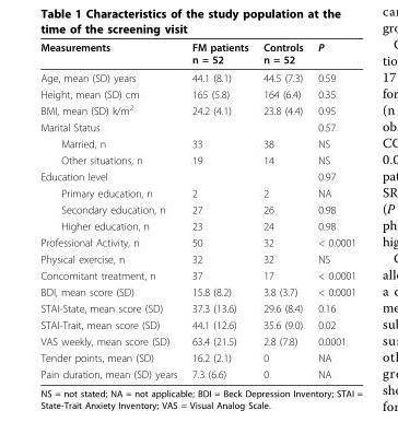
<table><thead><tr><td>Measurements</td><td>FM patients n = 52</td><td>Controls n = 52</td><td>P</td></tr></thead><tbody><tr><td>Age, mean (SD) years</td><td>44.1 (8.1)</td><td>44.5 (7.3)</td><td>0.59</td></tr><tr><td>Height, mean (SD) cm</td><td>165 (5.8)</td><td>164 (6.4)</td><td>0.35</td></tr><tr><td>BMI, mean (SD) k/m<sup>2</sup></td><td>24.2 (4.1)</td><td>23.8 (4.4)</td><td>0.95</td></tr><tr><td>Marital Status</td><td></td><td></td><td>0.57</td></tr><tr><td>Married, n</td><td>33</td><td>38</td><td>NS</td></tr><tr><td>Other situations, n</td><td>19</td><td>14</td><td>NS</td></tr><tr><td>Education level</td><td></td><td></td><td>0.97</td></tr><tr><td>Primary education, n</td><td>2</td><td>2</td><td>NA</td></tr><tr><td>Secondary education, n</td><td>27</td><td>26</td><td>0.98</td></tr><tr><td>Higher education, n</td><td>23</td><td>24</td><td>0.98</td></tr><tr><td>Professional Activity, n</td><td>50</td><td>32</td><td>&lt; 0.0001</td></tr><tr><td>Physical exercise, n</td><td>32</td><td>32</td><td>NS</td></tr><tr><td>Concomitant treatment, n</td><td>37</td><td>17</td><td>&lt; 0.0001</td></tr><tr><td>BDI, mean score (SD)</td><td>15.8 (8.2)</td><td>3.8 (3.7)</td><td>&lt; 0.0001</td></tr><tr><td>STAI-State, mean score (SD)</td><td>37.3 (13.6)</td><td>29.6 (8.4)</td><td>0.16</td></tr><tr><td>STAI-Trait, mean score (SD)</td><td>44.1 (12.6)</td><td>35.6 (9.0)</td><td>0.02</td></tr><tr><td>VAS weekly, mean score (SD)</td><td>63.4 (21.5)</td><td>2.8 (7.8)</td><td>0.0001</td></tr><tr><td>Tender points, mean (SD)</td><td>16.2 (2.1)</td><td>0</td><td>NA</td></tr><tr><td>Pain duration, mean (SD) years</td><td>7.3 (6.6)</td><td>0</td><td>NA</td></tr></tbody></table>